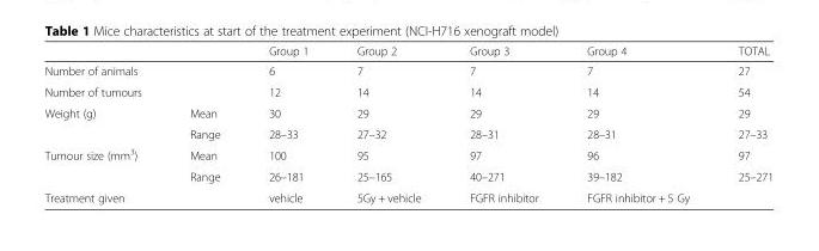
<table><thead><tr><td></td><td></td><td>Group 1</td><td>Group 2</td><td>Group 3</td><td>Group 4</td><td>TOTAL</td></tr></thead><tbody><tr><td>Number of animals</td><td></td><td>6</td><td>7</td><td>7</td><td>7</td><td>27</td></tr><tr><td>Number of tumours</td><td></td><td>12</td><td>14</td><td>14</td><td>14</td><td>54</td></tr><tr><td rowspan="2">Weight (g)</td><td>Mean</td><td>30</td><td>29</td><td>29</td><td>29</td><td>29</td></tr><tr><td>Range</td><td>28–33</td><td>27–32</td><td>28–31</td><td>28–31</td><td>27–33</td></tr><tr><td rowspan="2">Tumour size (mm<sup>3</sup>)</td><td>Mean</td><td>100</td><td>95</td><td>97</td><td>96</td><td>97</td></tr><tr><td>Range</td><td>26–181</td><td>25–165</td><td>40–271</td><td>39–182</td><td>25–271</td></tr><tr><td>Treatment given</td><td></td><td>vehicle</td><td>5Gy + vehicle</td><td>FGFR inhibitor</td><td>FGFR inhibitor + 5 Gy</td><td></td></tr></tbody></table>